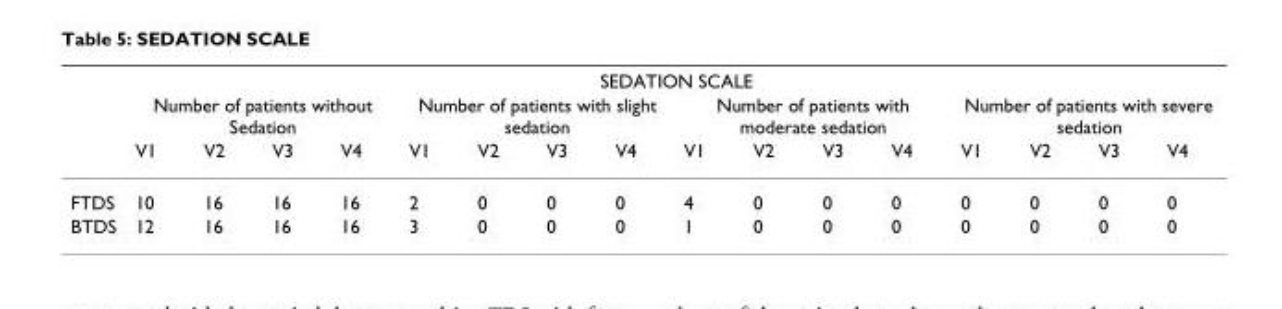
<table><thead><tr><td rowspan="3"></td><td colspan="16">SEDATION SCALE</td></tr><tr><td colspan="4">Number of patients without Sedation</td><td colspan="4">Number of patients with slight sedation</td><td colspan="4">Number of patients with moderate sedation</td><td colspan="4">Number of patients with severe sedation</td></tr><tr><td>V1</td><td>V2</td><td>V3</td><td>V4</td><td>V1</td><td>V2</td><td>V3</td><td>V4</td><td>V1</td><td>V2</td><td>V3</td><td>V4</td><td>V1</td><td>V2</td><td>V3</td><td>V4</td></tr></thead><tbody><tr><td>FTDS</td><td>10</td><td>16</td><td>16</td><td>16</td><td>2</td><td>0</td><td>0</td><td>0</td><td>4</td><td>0</td><td>0</td><td>0</td><td>0</td><td>0</td><td>0</td><td>0</td></tr><tr><td>BTDS</td><td>12</td><td>16</td><td>16</td><td>16</td><td>3</td><td>0</td><td>0</td><td>0</td><td>1</td><td>0</td><td>0</td><td>0</td><td>0</td><td>0</td><td>0</td><td>0</td></tr></tbody></table>